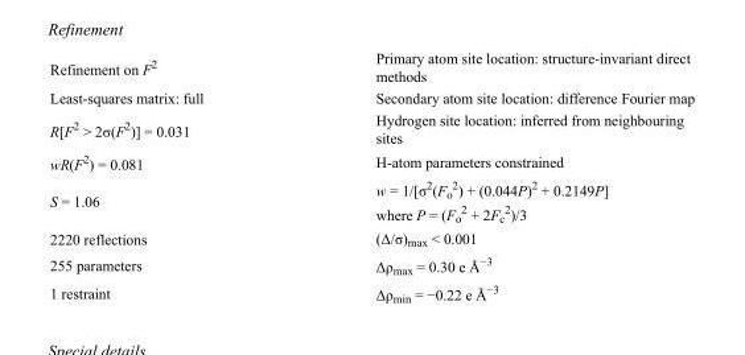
<table><tbody><tr><td>Refinement on F<sup>2</sup></td><td>Primary atom site location: structure-invariant direct methods</td></tr><tr><td>Least-squares matrix: full</td><td>Secondary atom site location: difference Fourier map</td></tr><tr><td>R[F<sup>2</sup> &gt; 2σ(F<sup>2</sup>)] = 0.031</td><td>Hydrogen site location: inferred from neighbouring sites</td></tr><tr><td>wR(F<sup>2</sup>) = 0.081</td><td>H-atom parameters constrained</td></tr><tr><td>S = 1.06</td><td>w = 1/[σ<sup>2</sup>(F<sub>o</sub> <sup>2</sup>) + (0.044P)<sup>2</sup> + 0.2149P] where P = (F<sub>o</sub> <sup>2</sup> + 2F<sub>c</sub> <sup>2</sup>)/3</td></tr><tr><td>2220 reflections</td><td>(Δ/σ)<sub>max</sub> &lt; 0.001</td></tr><tr><td>255 parameters</td><td>Δρ<sub>max</sub> = 0.30 e Å<sup>−3</sup></td></tr><tr><td>1 restraint</td><td>Δρ<sub>min</sub> = −0.22 e Å<sup>−3</sup></td></tr></tbody></table>